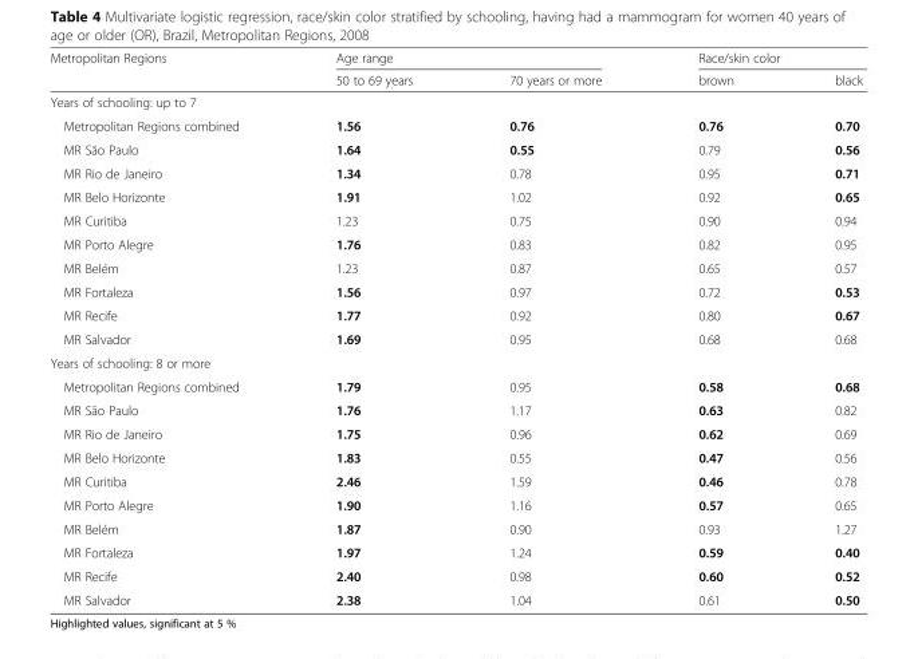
<table><thead><tr><td rowspan="2">Metropolitan Regions</td><td colspan="2">Age range</td><td colspan="2">Race/skin color</td></tr><tr><td>50 to 69 years</td><td>70 years or more</td><td>brown</td><td>black</td></tr></thead><tbody><tr><td colspan="5">Years of schooling: up to 7</td></tr><tr><td>Metropolitan Regions combined</td><td>1.56</td><td>0.76</td><td>0.76</td><td>0.70</td></tr><tr><td>MR São Paulo</td><td>1.64</td><td>0.55</td><td>0.79</td><td>0.56</td></tr><tr><td>MR Rio de Janeiro</td><td>1.34</td><td>0.78</td><td>0.95</td><td>0.71</td></tr><tr><td>MR Belo Horizonte</td><td>1.91</td><td>1.02</td><td>0.92</td><td>0.65</td></tr><tr><td>MR Curitiba</td><td>1.23</td><td>0.75</td><td>0.90</td><td>0.94</td></tr><tr><td>MR Porto Alegre</td><td>1.76</td><td>0.83</td><td>0.82</td><td>0.95</td></tr><tr><td>MR Belém</td><td>1.23</td><td>0.87</td><td>0.65</td><td>0.57</td></tr><tr><td>MR Fortaleza</td><td>1.56</td><td>0.97</td><td>0.72</td><td>0.53</td></tr><tr><td>MR Recife</td><td>1.77</td><td>0.92</td><td>0.80</td><td>0.67</td></tr><tr><td>MR Salvador</td><td>1.69</td><td>0.95</td><td>0.68</td><td>0.68</td></tr><tr><td colspan="5">Years of schooling: 8 or more</td></tr><tr><td>Metropolitan Regions combined</td><td>1.79</td><td>0.95</td><td>0.58</td><td>0.68</td></tr><tr><td>MR São Paulo</td><td>1.76</td><td>1.17</td><td>0.63</td><td>0.82</td></tr><tr><td>MR Rio de Janeiro</td><td>1.75</td><td>0.96</td><td>0.62</td><td>0.69</td></tr><tr><td>MR Belo Horizonte</td><td>1.83</td><td>0.55</td><td>0.47</td><td>0.56</td></tr><tr><td>MR Curitiba</td><td>2.46</td><td>1.59</td><td>0.46</td><td>0.78</td></tr><tr><td>MR Porto Alegre</td><td>1.90</td><td>1.16</td><td>0.57</td><td>0.65</td></tr><tr><td>MR Belém</td><td>1.87</td><td>0.90</td><td>0.93</td><td>1.27</td></tr><tr><td>MR Fortaleza</td><td>1.97</td><td>1.24</td><td>0.59</td><td>0.40</td></tr><tr><td>MR Recife</td><td>2.40</td><td>0.98</td><td>0.60</td><td>0.52</td></tr><tr><td>MR Salvador</td><td>2.38</td><td>1.04</td><td>0.61</td><td>0.50</td></tr></tbody></table>